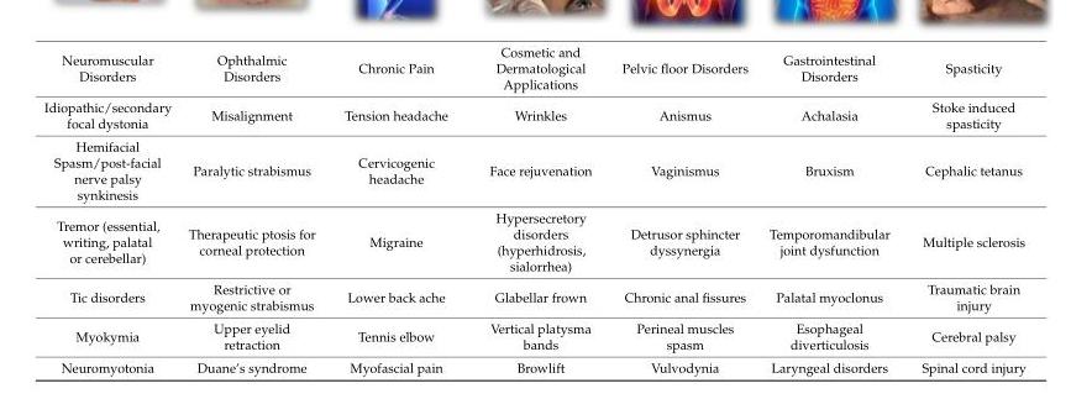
<table><tbody><tr><td>Neuromuscular Disorders</td><td>Ophthalmic Disorders</td><td>Chronic Pain</td><td>Cosmetic and Dermatological Applications</td><td>Pelvic floor Disorders</td><td>Gastrointestinal Disorders</td><td>Spasticity</td></tr><tr><td>Idiopathic/secondary focal dystonia</td><td>Misalignment</td><td>Tension headache</td><td>Wrinkles</td><td>Anismus</td><td>Achalasia</td><td>Stoke induced spasticity</td></tr><tr><td>Hemifacial Spasm/post-facial nerve palsy synkinesis</td><td>Paralytic strabismus</td><td>Cervicogenic headache</td><td>Face rejuvenation</td><td>Vaginismus</td><td>Bruxism</td><td>Cephalic tetanus</td></tr><tr><td>Tremor (essential, writing, palatal or cerebellar)</td><td>Therapeutic ptosis for corneal protection</td><td>Migraine</td><td>Hypersecretory disorders (hyperhidrosis, sialorrhea)</td><td>Detrusor sphincter dyssynergia</td><td>Temporomandibular joint dysfunction</td><td>Multiple sclerosis</td></tr><tr><td>Tic disorders</td><td>Restrictive or myogenic strabismus</td><td>Lower back ache</td><td>Glabellar frown</td><td>Chronic anal fissures</td><td>Palatal myoclonus</td><td>Traumatic brain injury</td></tr><tr><td>Myokymia</td><td>Upper eyelid retraction</td><td>Tennis elbow</td><td>Vertical platysma bands</td><td>Perineal muscles spasm</td><td>Esophageal diverticulosis</td><td>Cerebral palsy</td></tr><tr><td>Neuromyotonia</td><td>Duane’s syndrome</td><td>Myofascial pain</td><td>Browlift</td><td>Vulvodynia</td><td>Laryngeal disorders</td><td>Spinal cord injury</td></tr></tbody></table>